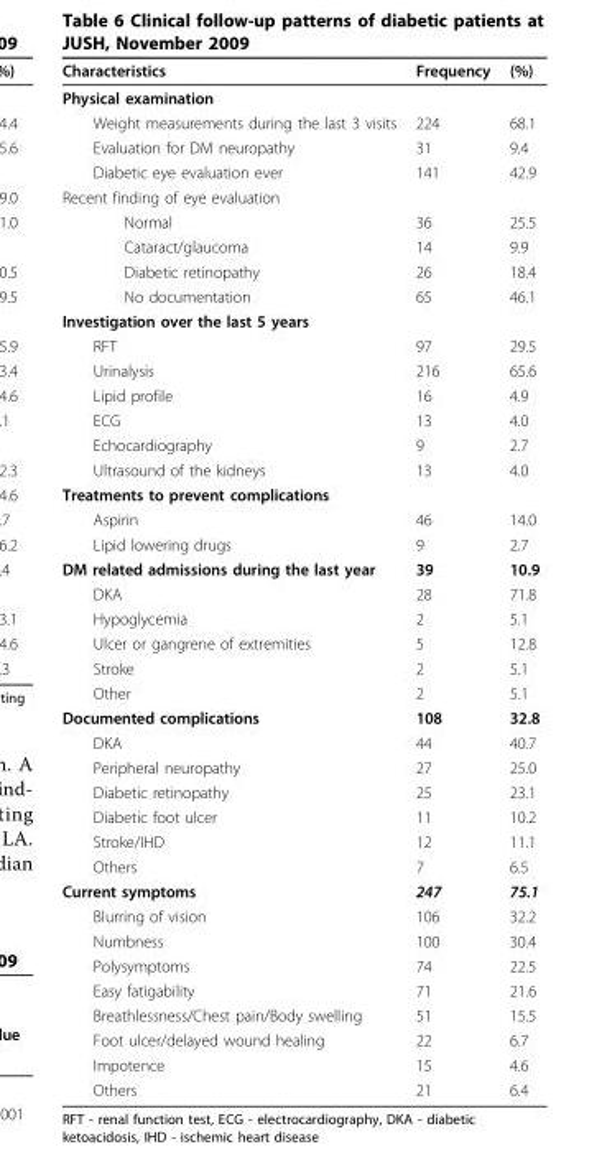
<table><thead><tr><td>Characteristics</td><td>Frequency</td><td>(%)</td></tr></thead><tbody><tr><td colspan="3">Physical examination</td></tr><tr><td>Weight measurements during the last 3 visits</td><td>224</td><td>68.1</td></tr><tr><td>Evaluation for DM neuropathy</td><td>31</td><td>9.4</td></tr><tr><td>Diabetic eye evaluation ever</td><td>141</td><td>42.9</td></tr><tr><td colspan="3">Recent finding of eye evaluation</td></tr><tr><td>Normal</td><td>36</td><td>25.5</td></tr><tr><td>Cataract/glaucoma</td><td>14</td><td>9.9</td></tr><tr><td>Diabetic retinopathy</td><td>26</td><td>18.4</td></tr><tr><td>No documentation</td><td>65</td><td>46.1</td></tr><tr><td colspan="3">Investigation over the last 5 years</td></tr><tr><td>RFT</td><td>97</td><td>29.5</td></tr><tr><td>Urinalysis</td><td>216</td><td>65.6</td></tr><tr><td>Lipid profile</td><td>16</td><td>4.9</td></tr><tr><td>ECG</td><td>13</td><td>4.0</td></tr><tr><td>Echocardiography</td><td>9</td><td>2.7</td></tr><tr><td>Ultrasound of the kidneys</td><td>13</td><td>4.0</td></tr><tr><td colspan="3">Treatments to prevent complications</td></tr><tr><td>Aspirin</td><td>46</td><td>14.0</td></tr><tr><td>Lipid lowering drugs</td><td>9</td><td>2.7</td></tr><tr><td>DM related admissions during the last year</td><td>39</td><td>10.9</td></tr><tr><td>DKA</td><td>28</td><td>71.8</td></tr><tr><td>Hypoglycemia</td><td>2</td><td>5.1</td></tr><tr><td>Ulcer or gangrene of extremities</td><td>5</td><td>12.8</td></tr><tr><td>Stroke</td><td>2</td><td>5.1</td></tr><tr><td>Other</td><td>2</td><td>5.1</td></tr><tr><td>Documented complications</td><td>108</td><td>32.8</td></tr><tr><td>DKA</td><td>44</td><td>40.7</td></tr><tr><td>Peripheral neuropathy</td><td>27</td><td>25.0</td></tr><tr><td>Diabetic retinopathy</td><td>25</td><td>23.1</td></tr><tr><td>Diabetic foot ulcer</td><td>11</td><td>10.2</td></tr><tr><td>Stroke/IHD</td><td>12</td><td>11.1</td></tr><tr><td>Others</td><td>7</td><td>6.5</td></tr><tr><td>Current symptoms</td><td>247</td><td>75.1</td></tr><tr><td>Blurring of vision</td><td>106</td><td>32.2</td></tr><tr><td>Numbness</td><td>100</td><td>30.4</td></tr><tr><td>Polysymptoms</td><td>74</td><td>22.5</td></tr><tr><td>Easy fatigability</td><td>71</td><td>21.6</td></tr><tr><td>Breathlessness/Chest pain/Body swelling</td><td>51</td><td>15.5</td></tr><tr><td>Foot ulcer/delayed wound healing</td><td>22</td><td>6.7</td></tr><tr><td>Impotence</td><td>15</td><td>4.6</td></tr><tr><td>Others</td><td>21</td><td>6.4</td></tr></tbody></table>